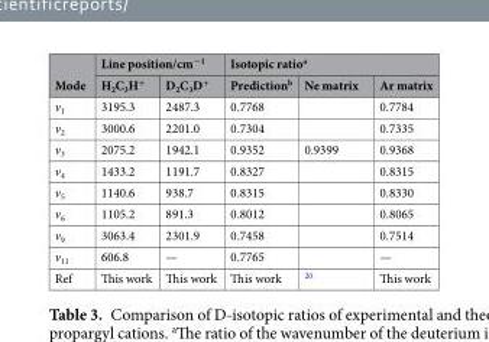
<table><thead><tr><td rowspan="2">Mode</td><td colspan="2">Line position/cm<sup>−1</sup></td><td colspan="3">Isotopic ratio<sup>a</sup></td></tr><tr><td>H<sub>2</sub>C<sub>3</sub>H<sup>+</sup></td><td>D<sub>2</sub>C<sub>3</sub>D<sup>+</sup></td><td>Prediction<sup>b</sup></td><td>Ne matrix</td><td>Ar matrix</td></tr></thead><tbody><tr><td>v<sub>1</sub></td><td>3195.3</td><td>2487.3</td><td>0.7768</td><td></td><td>0.7784</td></tr><tr><td>v<sub>2</sub></td><td>3000.6</td><td>2201.0</td><td>0.7304</td><td></td><td>0.7335</td></tr><tr><td>v<sub>3</sub></td><td>2075.2</td><td>1942.1</td><td>0.9352</td><td>0.9399</td><td>0.9368</td></tr><tr><td>v<sub>4</sub></td><td>1433.2</td><td>1191.7</td><td>0.8327</td><td></td><td>0.8315</td></tr><tr><td>v<sub>5</sub></td><td>1140.6</td><td>938.7</td><td>0.8315</td><td></td><td>0.8330</td></tr><tr><td>v<sub>6</sub></td><td>1105.2</td><td>891.3</td><td>0.8012</td><td></td><td>0.8065</td></tr><tr><td>v<sub>9</sub></td><td>3063.4</td><td>2301.9</td><td>0.7458</td><td></td><td>0.7514</td></tr><tr><td>v<sub>11</sub></td><td>606.8</td><td>—</td><td>0.7765</td><td></td><td>—</td></tr><tr><td>Ref</td><td>This work</td><td>This work</td><td>This work</td><td><sup>20</sup></td><td>This work</td></tr></tbody></table>